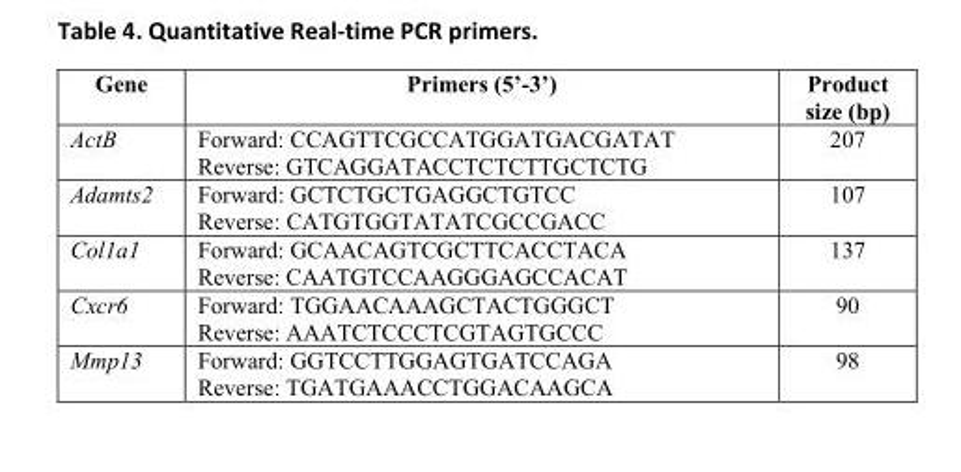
<table><thead><tr><td>Gene</td><td>Primers (5’-3’)</td><td>Product size (bp)</td></tr></thead><tbody><tr><td>ActB</td><td>Forward: CCAGTTCGCCATGGATGACGATAT Reverse: GTCAGGATACCTCTCTTGCTCTG</td><td>207</td></tr><tr><td>Adamts2</td><td>Forward: GCTCTGCTGAGGCTGTCC Reverse: CATGTGGTATATCGCCGACC</td><td>107</td></tr><tr><td>Col1a1</td><td>Forward: GCAACAGTCGCTTCACCTACA Reverse: CAATGTCCAAGGGAGCCACAT</td><td>137</td></tr><tr><td>Cxcr6</td><td>Forward: TGGAACAAAGCTACTGGGCT Reverse: AAATCTCCCTCGTAGTGCCC</td><td>90</td></tr><tr><td>Mmp13</td><td>Forward: GGTCCTTGGAGTGATCCAGA Reverse: TGATGAAACCTGGACAAGCA</td><td>98</td></tr></tbody></table>